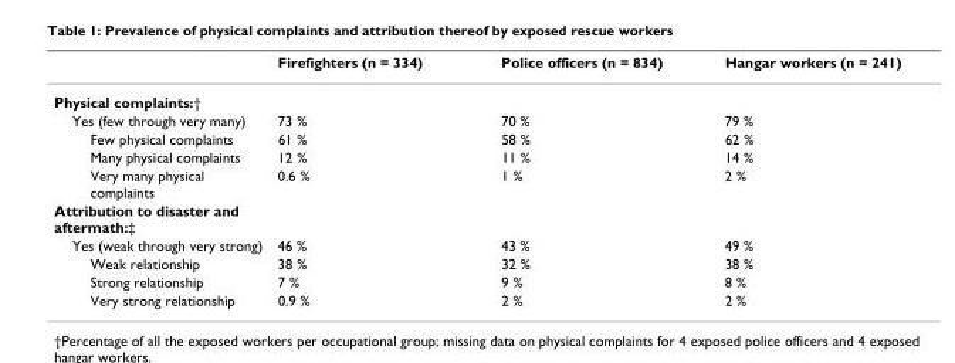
<table><thead><tr><td></td><td>Firefighters (n = 334)</td><td>Police officers (n = 834)</td><td>Hangar workers (n = 241)</td></tr></thead><tbody><tr><td colspan="4">Physical complaints:†</td></tr><tr><td>Yes (few through very many)</td><td>73 %</td><td>70 %</td><td>79 %</td></tr><tr><td>Few physical complaints</td><td>61 %</td><td>58 %</td><td>62 %</td></tr><tr><td>Many physical complaints</td><td>12 %</td><td>11 %</td><td>14 %</td></tr><tr><td>Very many physical complaints</td><td>0.6 %</td><td>1 %</td><td>2 %</td></tr><tr><td colspan="4">Attribution to disaster and aftermath:‡</td></tr><tr><td>Yes (weak through very strong)</td><td>46 %</td><td>43 %</td><td>49 %</td></tr><tr><td>Weak relationship</td><td>38 %</td><td>32 %</td><td>38 %</td></tr><tr><td>Strong relationship</td><td>7 %</td><td>9 %</td><td>8 %</td></tr><tr><td>Very strong relationship</td><td>0.9 %</td><td>2 %</td><td>2 %</td></tr></tbody></table>